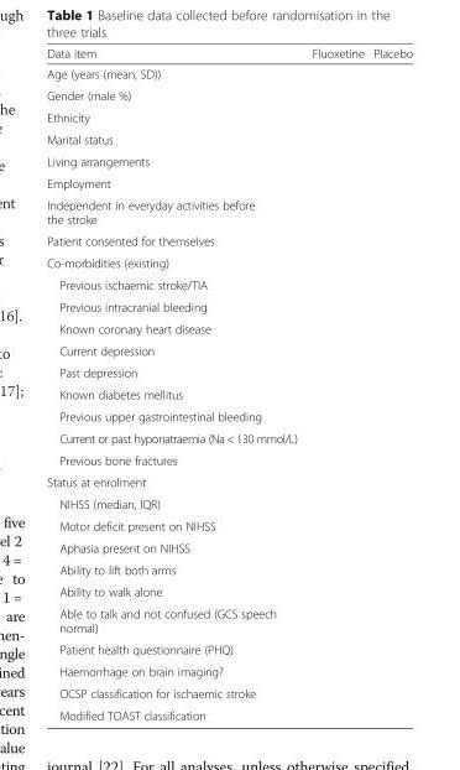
<table><thead><tr><td>Data item</td><td>Fluoxetine</td><td>Placebo</td></tr></thead><tbody><tr><td colspan="3">Age (years (mean, SD))</td></tr><tr><td colspan="3">Gender (male %)</td></tr><tr><td colspan="3">Ethnicity</td></tr><tr><td colspan="3">Marital status</td></tr><tr><td colspan="3">Living arrangements</td></tr><tr><td colspan="3">Employment</td></tr><tr><td colspan="3">Independent in everyday activities before the stroke</td></tr><tr><td colspan="3">Patient consented for themselves</td></tr><tr><td colspan="3">Co-morbidities (existing)</td></tr><tr><td colspan="3">Previous ischaemic stroke/TIA</td></tr><tr><td colspan="3">Previous intracranial bleeding</td></tr><tr><td colspan="3">Known coronary heart disease</td></tr><tr><td colspan="3">Current depression</td></tr><tr><td colspan="3">Past depression</td></tr><tr><td colspan="3">Known diabetes mellitus</td></tr><tr><td colspan="3">Previous upper gastrointestinal bleeding</td></tr><tr><td colspan="3">Current or past hyponatraemia (Na &lt; 130 mmol/L)</td></tr><tr><td colspan="3">Previous bone fractures</td></tr><tr><td colspan="3">Status at enrolment</td></tr><tr><td colspan="3">NIHSS (median, IQR)</td></tr><tr><td colspan="3">Motor deficit present on NIHSS</td></tr><tr><td colspan="3">Aphasia present on NIHSS</td></tr><tr><td colspan="3">Ability to lift both arms</td></tr><tr><td colspan="3">Ability to walk alone</td></tr><tr><td colspan="3">Able to talk and not confused (GCS speech normal)</td></tr><tr><td colspan="3">Patient health questionnaire (PHQ)</td></tr><tr><td colspan="3">Haemorrhage on brain imaging?</td></tr><tr><td colspan="3">OCSP classification for ischaemic stroke</td></tr><tr><td>Modified TOAST classification</td><td></td><td></td></tr></tbody></table>